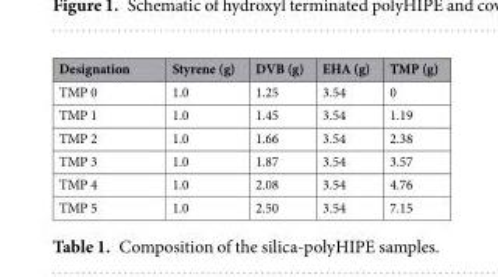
<table><thead><tr><td>Designation</td><td>Styrene (g)</td><td>DVB (g)</td><td>EHA (g)</td><td>TMP (g)</td></tr></thead><tbody><tr><td>TMP 0</td><td>1.0</td><td>1.25</td><td>3.54</td><td>0</td></tr><tr><td>TMP 1</td><td>1.0</td><td>1.45</td><td>3.54</td><td>1.19</td></tr><tr><td>TMP 2</td><td>1.0</td><td>1.66</td><td>3.54</td><td>2.38</td></tr><tr><td>TMP 3</td><td>1.0</td><td>1.87</td><td>3.54</td><td>3.57</td></tr><tr><td>TMP 4</td><td>1.0</td><td>2.08</td><td>3.54</td><td>4.76</td></tr><tr><td>TMP 5</td><td>1.0</td><td>2.50</td><td>3.54</td><td>7.15</td></tr></tbody></table>